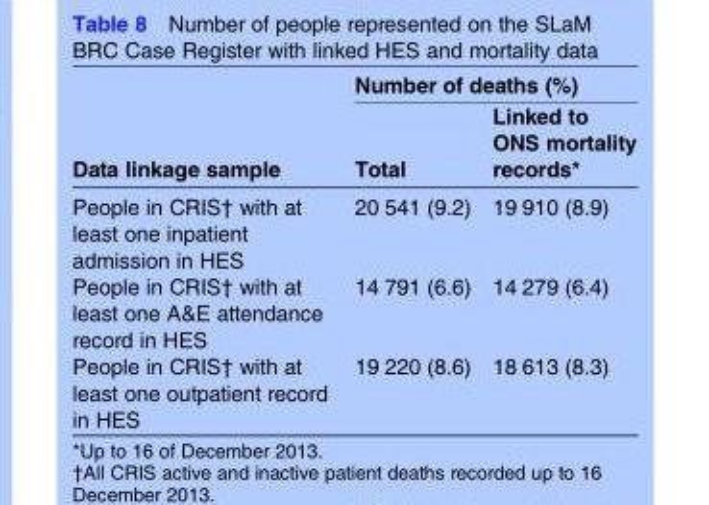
<table><thead><tr><td rowspan="2">Data linkage sample</td><td colspan="2">Number of deaths (%)</td></tr><tr><td>Total</td><td>Linked to ONS mortality records*</td></tr></thead><tbody><tr><td>People in CRIS† with at least one inpatient admission in HES</td><td>20 541 (9.2)</td><td>19 910 (8.9)</td></tr><tr><td>People in CRIS† with at least one A&amp;E attendance record in HES</td><td>14 791 (6.6)</td><td>14 279 (6.4)</td></tr><tr><td>People in CRIS† with at least one outpatient record in HES</td><td>19 220 (8.6)</td><td>18 613 (8.3)</td></tr></tbody></table>